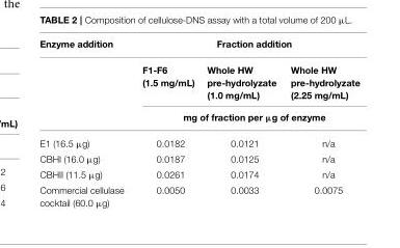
<table><thead><tr><td rowspan="2">Enzyme addition</td><td colspan="3">Fraction addition</td></tr><tr><td>F1-F6 (1.5 mg/mL)</td><td>Whole HW pre-hydrolyzate (1.0 mg/mL)</td><td>Whole HW pre-hydrolyzate (2.25 mg/mL)</td></tr></thead><tbody><tr><td></td><td colspan="3">mg of fraction per µg of enzyme</td></tr><tr><td>E1 (16.5 µg)</td><td>0.0182</td><td>0.0121</td><td>n/a</td></tr><tr><td>CBHI (16.0 µg)</td><td>0.0187</td><td>0.0125</td><td>n/a</td></tr><tr><td>CBHII (11.5 µg)</td><td>0.0261</td><td>0.0174</td><td>n/a</td></tr><tr><td>Commercial cellulase cocktail (60.0 µg)</td><td>0.0050</td><td>0.0033</td><td>0.0075</td></tr></tbody></table>